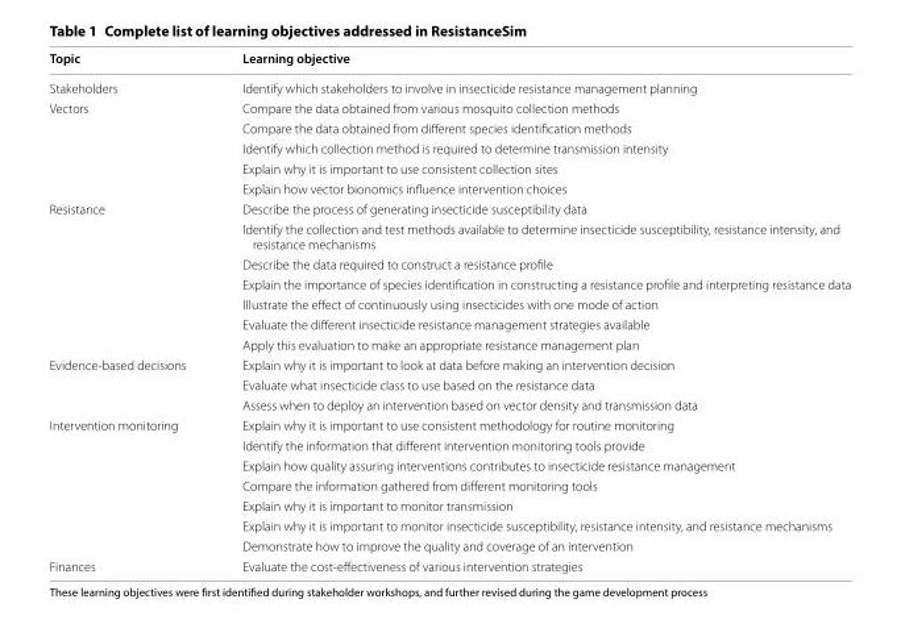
<table><thead><tr><td>Topic</td><td>Learning objective</td></tr></thead><tbody><tr><td>Stakeholders</td><td>Identify which stakeholders to involve in insecticide resistance management planning</td></tr><tr><td rowspan="5">Vectors</td><td>Compare the data obtained from various mosquito collection methods</td></tr><tr><td>Compare the data obtained from different species identification methods</td></tr><tr><td>Identify which collection method is required to determine transmission intensity</td></tr><tr><td>Explain why it is important to use consistent collection sites</td></tr><tr><td>Explain how vector bionomics influence intervention choices</td></tr><tr><td rowspan="7">Resistance</td><td>Describe the process of generating insecticide susceptibility data</td></tr><tr><td>Identify the collection and test methods available to determine insecticide susceptibility, resistance intensity, and resistance mechanisms</td></tr><tr><td>Describe the data required to construct a resistance profile</td></tr><tr><td>Explain the importance of species identification in constructing a resistance profile and interpreting resistance data</td></tr><tr><td>Illustrate the effect of continuously using insecticides with one mode of action</td></tr><tr><td>Evaluate the different insecticide resistance management strategies available</td></tr><tr><td>Apply this evaluation to make an appropriate resistance management plan</td></tr><tr><td rowspan="3">Evidence-based decisions</td><td>Explain why it is important to look at data before making an intervention decision</td></tr><tr><td>Evaluate what insecticide class to use based on the resistance data</td></tr><tr><td>Assess when to deploy an intervention based on vector density and transmission data</td></tr><tr><td rowspan="7">Intervention monitoring</td><td>Explain why it is important to use consistent methodology for routine monitoring</td></tr><tr><td>Identify the information that different intervention monitoring tools provide</td></tr><tr><td>Explain how quality assuring interventions contributes to insecticide resistance management</td></tr><tr><td>Compare the information gathered from different monitoring tools</td></tr><tr><td>Explain why it is important to monitor transmission</td></tr><tr><td>Explain why it is important to monitor insecticide susceptibility, resistance intensity, and resistance mechanisms</td></tr><tr><td>Demonstrate how to improve the quality and coverage of an intervention</td></tr><tr><td>Finances</td><td>Evaluate the cost-effectiveness of various intervention strategies</td></tr></tbody></table>